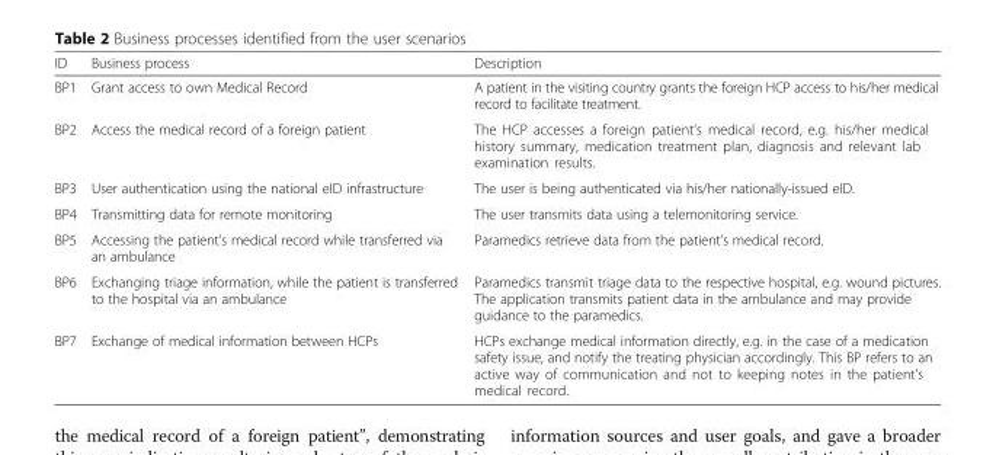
<table><thead><tr><td>ID</td><td>Business process</td><td>Description</td></tr></thead><tbody><tr><td>BP1</td><td>Grant access to own Medical Record</td><td>A patient in the visiting country grants the foreign HCP access to his/her medical record to facilitate treatment.</td></tr><tr><td>BP2</td><td>Access the medical record of a foreign patient</td><td>The HCP accesses a foreign patient’s medical record, e.g. his/her medical history summary, medication treatment plan, diagnosis and relevant lab examination results.</td></tr><tr><td>BP3</td><td>User authentication using the national eID infrastructure</td><td>The user is being authenticated via his/her nationally-issued eID.</td></tr><tr><td>BP4</td><td>Transmitting data for remote monitoring</td><td>The user transmits data using a telemonitoring service.</td></tr><tr><td>BP5</td><td>Accessing the patient’s medical record while transferred via an ambulance</td><td>Paramedics retrieve data from the patient’s medical record.</td></tr><tr><td>BP6</td><td>Exchanging triage information, while the patient is transferred to the hospital via an ambulance</td><td>Paramedics transmit triage data to the respective hospital, e.g. wound pictures. The application transmits patient data in the ambulance and may provide guidance to the paramedics.</td></tr><tr><td>BP7</td><td>Exchange of medical information between HCPs</td><td>HCPs exchange medical information directly, e.g. in the case of a medication safety issue, and notify the treating physician accordingly. This BP refers to an active way of communication and not to keeping notes in the patient’s medical record.</td></tr></tbody></table>